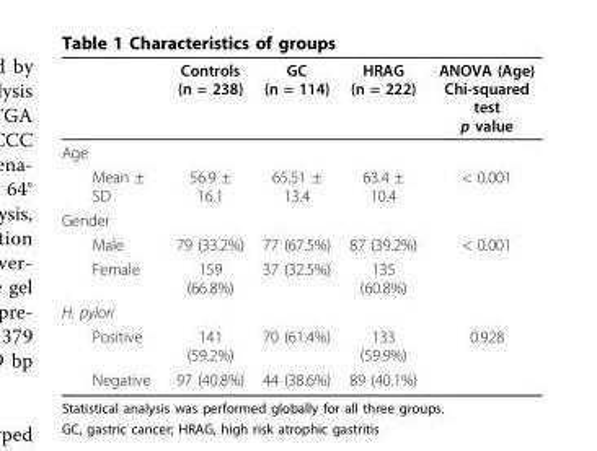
<table><thead><tr><td></td><td>Controls (n = 238)</td><td>GC (n = 114)</td><td>HRAG (n = 222)</td><td>ANOVA (Age) Chi-squared test p value</td></tr></thead><tbody><tr><td colspan="5">Age</td></tr><tr><td>Mean ± SD</td><td>56.9 ± 16.1</td><td>65.51 ± 13.4</td><td>63.4 ± 10.4</td><td>&lt; 0.001</td></tr><tr><td colspan="5">Gender</td></tr><tr><td>Male</td><td>79 (33.2%)</td><td>77 (67.5%)</td><td>87 (39.2%)</td><td>&lt; 0.001</td></tr><tr><td>Female</td><td>159 (66.8%)</td><td>37 (32.5%)</td><td>135 (60.8%)</td><td></td></tr><tr><td colspan="5">H. pylori</td></tr><tr><td>Positive</td><td>141 (59.2%)</td><td>70 (61.4%)</td><td>133 (59.9%)</td><td>0.928</td></tr><tr><td>Negative</td><td>97 (40.8%)</td><td>44 (38.6%)</td><td>89 (40.1%)</td><td></td></tr></tbody></table>